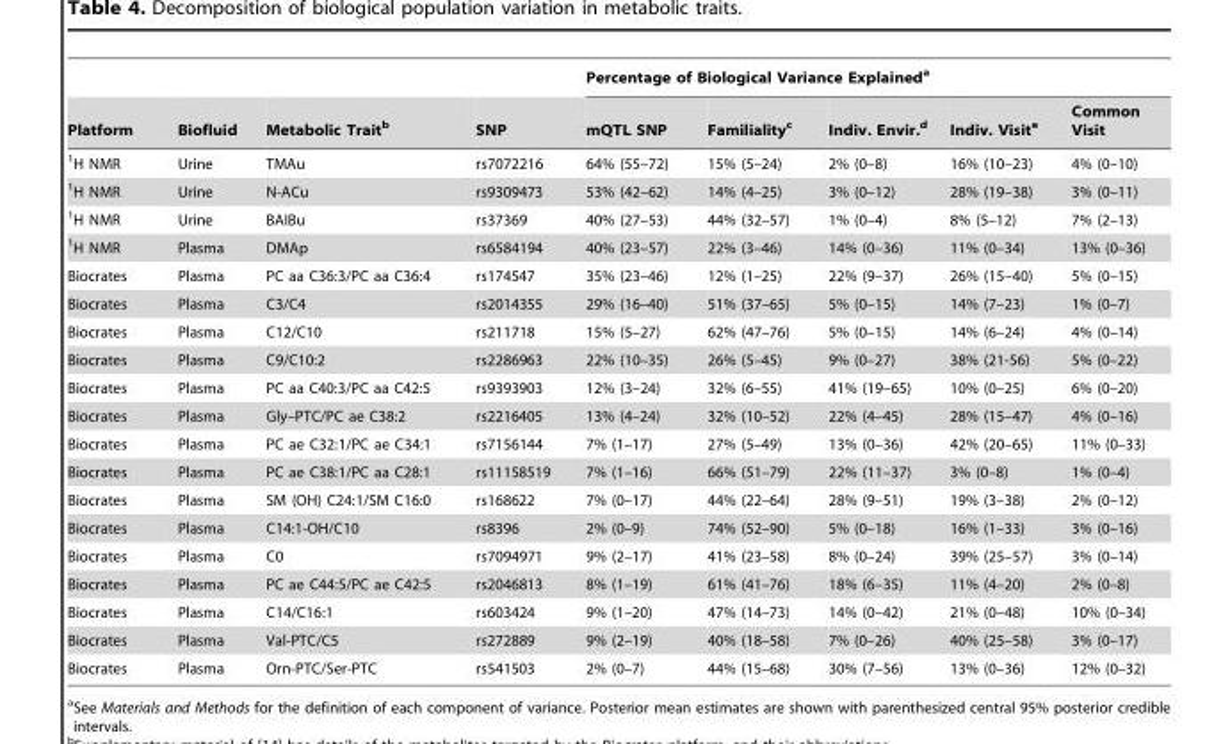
<table><thead><tr><td rowspan="2">Platform</td><td rowspan="2">Biofluid</td><td rowspan="2">Metabolic Trait<sup>b</sup></td><td rowspan="2">SNP</td><td colspan="5">Percentage of Biological Variance Explained<sup>a</sup></td></tr><tr><td>mQTL SNP</td><td>Familiality<sup>c</sup></td><td>Indiv. Envir.<sup>d</sup></td><td>Indiv. Visit<sup>e</sup></td><td>Common Visit</td></tr></thead><tbody><tr><td><sup>1</sup>H NMR</td><td>Urine</td><td>TMAu</td><td>rs7072216</td><td>64% (55–72)</td><td>15% (5–24)</td><td>2% (0–8)</td><td>16% (10–23)</td><td>4% (0–10)</td></tr><tr><td><sup>1</sup>H NMR</td><td>Urine</td><td>N-ACu</td><td>rs9309473</td><td>53% (42–62)</td><td>14% (4–25)</td><td>3% (0–12)</td><td>28% (19–38)</td><td>3% (0–11)</td></tr><tr><td><sup>1</sup>H NMR</td><td>Urine</td><td>BAIBu</td><td>rs37369</td><td>40% (27–53)</td><td>44% (32–57)</td><td>1% (0–4)</td><td>8% (5–12)</td><td>7% (2–13)</td></tr><tr><td><sup>1</sup>H NMR</td><td>Plasma</td><td>DMAp</td><td>rs6584194</td><td>40% (23–57)</td><td>22% (3–46)</td><td>14% (0–36)</td><td>11% (0–34)</td><td>13% (0–36)</td></tr><tr><td>Biocrates</td><td>Plasma</td><td>PC aa C36:3/PC aa C36:4</td><td>rs174547</td><td>35% (23–46)</td><td>12% (1–25)</td><td>22% (9–37)</td><td>26% (15–40)</td><td>5% (0–15)</td></tr><tr><td>Biocrates</td><td>Plasma</td><td>C3/C4</td><td>rs2014355</td><td>29% (16–40)</td><td>51% (37–65)</td><td>5% (0–15)</td><td>14% (7–23)</td><td>1% (0–7)</td></tr><tr><td>Biocrates</td><td>Plasma</td><td>C12/C10</td><td>rs211718</td><td>15% (5–27)</td><td>62% (47–76)</td><td>5% (0–15)</td><td>14% (6–24)</td><td>4% (0–14)</td></tr><tr><td>Biocrates</td><td>Plasma</td><td>C9/C10:2</td><td>rs2286963</td><td>22% (10–35)</td><td>26% (5–45)</td><td>9% (0–27)</td><td>38% (21-56)</td><td>5% (0–22)</td></tr><tr><td>Biocrates</td><td>Plasma</td><td>PC aa C40:3/PC aa C42:5</td><td>rs9393903</td><td>12% (3–24)</td><td>32% (6–55)</td><td>41% (19–65)</td><td>10% (0–25)</td><td>6% (0–20)</td></tr><tr><td>Biocrates</td><td>Plasma</td><td>Gly–PTC/PC ae C38:2</td><td>rs2216405</td><td>13% (4–24)</td><td>32% (10–52)</td><td>22% (4–45)</td><td>28% (15–47)</td><td>4% (0–16)</td></tr><tr><td>Biocrates</td><td>Plasma</td><td>PC ae C32:1/PC ae C34:1</td><td>rs7156144</td><td>7% (1–17)</td><td>27% (5–49)</td><td>13% (0–36)</td><td>42% (20–65)</td><td>11% (0–33)</td></tr><tr><td>Biocrates</td><td>Plasma</td><td>PC ae C38:1/PC aa C28:1</td><td>rs11158519</td><td>7% (1–16)</td><td>66% (51–79)</td><td>22% (11–37)</td><td>3% (0–8)</td><td>1% (0–4)</td></tr><tr><td>Biocrates</td><td>Plasma</td><td>SM (OH) C24:1/SM C16:0</td><td>rs168622</td><td>7% (0–17)</td><td>44% (22–64)</td><td>28% (9–51)</td><td>19% (3–38)</td><td>2% (0–12)</td></tr><tr><td>Biocrates</td><td>Plasma</td><td>C14:1-OH/C10</td><td>rs8396</td><td>2% (0–9)</td><td>74% (52–90)</td><td>5% (0–18)</td><td>16% (1–33)</td><td>3% (0–16)</td></tr><tr><td>Biocrates</td><td>Plasma</td><td>C0</td><td>rs7094971</td><td>9% (2–17)</td><td>41% (23–58)</td><td>8% (0–24)</td><td>39% (25–57)</td><td>3% (0–14)</td></tr><tr><td>Biocrates</td><td>Plasma</td><td>PC ae C44:5/PC ae C42:5</td><td>rs2046813</td><td>8% (1–19)</td><td>61% (41–76)</td><td>18% (6–35)</td><td>11% (4–20)</td><td>2% (0–8)</td></tr><tr><td>Biocrates</td><td>Plasma</td><td>C14/C16:1</td><td>rs603424</td><td>9% (1–20)</td><td>47% (14–73)</td><td>14% (0–42)</td><td>21% (0–48)</td><td>10% (0–34)</td></tr><tr><td>Biocrates</td><td>Plasma</td><td>Val-PTC/C5</td><td>rs272889</td><td>9% (2–19)</td><td>40% (18–58)</td><td>7% (0–26)</td><td>40% (25–58)</td><td>3% (0–17)</td></tr><tr><td>Biocrates</td><td>Plasma</td><td>Orn-PTC/Ser-PTC</td><td>rs541503</td><td>2% (0–7)</td><td>44% (15–68)</td><td>30% (7–56)</td><td>13% (0–36)</td><td>12% (0–32)</td></tr></tbody></table>